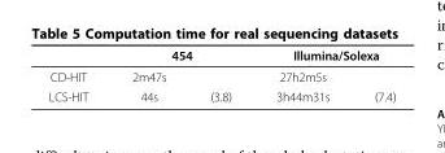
<table><thead><tr><td rowspan="2">CD-HIT</td><td colspan="2">454</td><td colspan="2">Illumina/Solexa</td></tr><tr><td>2m47s</td><td></td><td>27h2m5s</td><td></td></tr></thead><tbody><tr><td>LCS-HIT</td><td>44s</td><td>(3.8)</td><td>3h44m31s</td><td>(7.4)</td></tr></tbody></table>